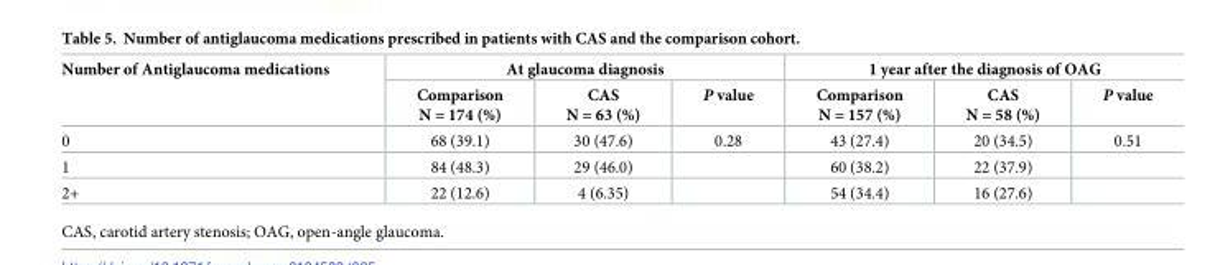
<table><thead><tr><td rowspan="2">Number of Antiglaucoma medications</td><td colspan="3">At glaucoma diagnosis</td><td colspan="3">1 year after the diagnosis of OAG</td></tr><tr><td>Comparison N = 174 (%)</td><td>CAS N = 63 (%)</td><td>P value</td><td>Comparison N = 157 (%)</td><td>CAS N = 58 (%)</td><td>P value</td></tr></thead><tbody><tr><td>0</td><td>68 (39.1)</td><td>30 (47.6)</td><td>0.28</td><td>43 (27.4)</td><td>20 (34.5)</td><td>0.51</td></tr><tr><td>1</td><td>84 (48.3)</td><td>29 (46.0)</td><td></td><td>60 (38.2)</td><td>22 (37.9)</td><td></td></tr><tr><td>2+</td><td>22 (12.6)</td><td>4 (6.35)</td><td></td><td>54 (34.4)</td><td>16 (27.6)</td><td></td></tr></tbody></table>